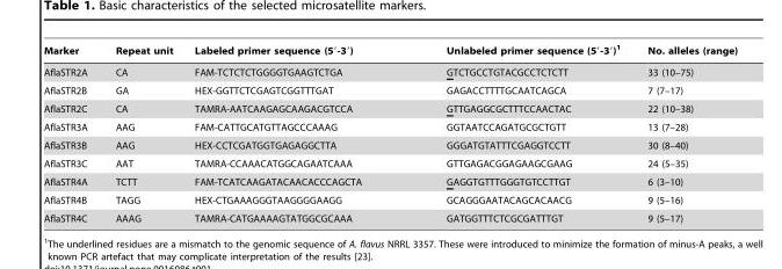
<table><thead><tr><td>Marker</td><td>Repeat unit</td><td>Labeled primer sequence (5′-3′)</td><td>Unlabeled primer sequence (5′-3′)<sup>1</sup></td><td>No. alleles (range)</td></tr></thead><tbody><tr><td>AflaSTR2A</td><td>CA</td><td>FAM-TCTCTCTGGGGTGAAGTCTGA</td><td>GTCTGCCTGTACGCCTCTCTT</td><td>33 (10–75)</td></tr><tr><td>AflaSTR2B</td><td>GA</td><td>HEX-GGTTCTCGAGTCGGTTTGAT</td><td>GAGACCTTTTGCAATCAGCA</td><td>7 (7–17)</td></tr><tr><td>AflaSTR2C</td><td>CA</td><td>TAMRA-AATCAAGAGCAAGACGTCCA</td><td>GTTGAGGCGCTTTCCAACTAC</td><td>22 (10–38)</td></tr><tr><td>AflaSTR3A</td><td>AAG</td><td>FAM-CATTGCATGTTAGCCCAAAG</td><td>GGTAATCCAGATGCGCTGTT</td><td>13 (7–28)</td></tr><tr><td>AflaSTR3B</td><td>AAG</td><td>HEX-CCTCGATGGTGAGAGGCTTA</td><td>GGGATGTATTTCGAGGTCCTT</td><td>30 (8–40)</td></tr><tr><td>AflaSTR3C</td><td>AAT</td><td>TAMRA-CCAAACATGGCAGAATCAAA</td><td>GTTGAGACGGAGAAGCGAAG</td><td>24 (5–35)</td></tr><tr><td>AflaSTR4A</td><td>TCTT</td><td>FAM-TCATCAAGATACAACACCCAGCTA</td><td>GAGGTGTTTGGGTGTCCTTGT</td><td>6 (3–10)</td></tr><tr><td>AflaSTR4B</td><td>TAGG</td><td>HEX-CTGAAAGGGTAAGGGGAAGG</td><td>GCAGGGAATACAGCACAACG</td><td>9 (5–16)</td></tr><tr><td>AflaSTR4C</td><td>AAAG</td><td>TAMRA-CATGAAAAGTATGGCGCAAA</td><td>GATGGTTTCTCGCGATTTGT</td><td>9 (5–17)</td></tr></tbody></table>